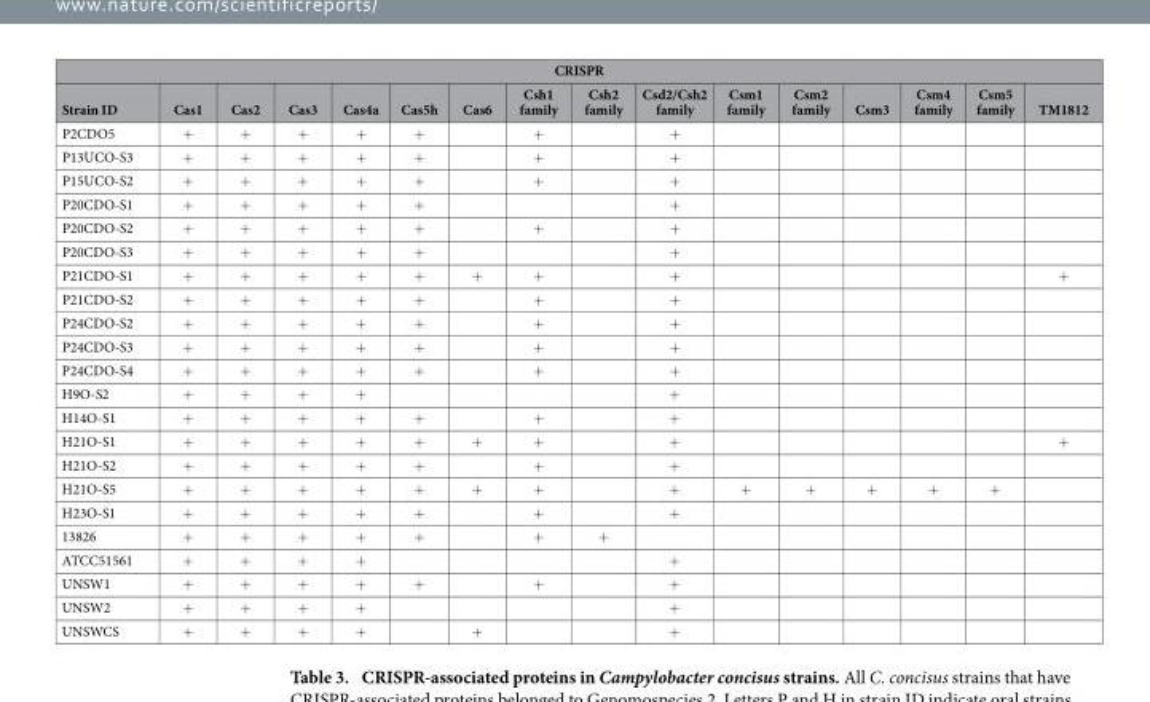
<table><thead><tr><td colspan="16">CRISPR</td></tr><tr><td>Strain ID</td><td>Cas1</td><td>Cas2</td><td>Cas3</td><td>Cas4a</td><td>Cas5h</td><td>Cas6</td><td>Csh1 family</td><td>Csh2 family</td><td>Csd2/Csh2 family</td><td>Csm1 family</td><td>Csm2 family</td><td>Csm3</td><td>Csm4 family</td><td>Csm5 family</td><td>TM1812</td></tr></thead><tbody><tr><td>P2CDO5</td><td>+</td><td>+</td><td>+</td><td>+</td><td>+</td><td></td><td>+</td><td></td><td>+</td><td></td><td></td><td></td><td></td><td></td><td></td></tr><tr><td>P13UCO-S3</td><td>+</td><td>+</td><td>+</td><td>+</td><td>+</td><td></td><td>+</td><td></td><td>+</td><td></td><td></td><td></td><td></td><td></td><td></td></tr><tr><td>P15UCO-S2</td><td>+</td><td>+</td><td>+</td><td>+</td><td>+</td><td></td><td>+</td><td></td><td>+</td><td></td><td></td><td></td><td></td><td></td><td></td></tr><tr><td>P20CDO-S1</td><td>+</td><td>+</td><td>+</td><td>+</td><td>+</td><td></td><td></td><td></td><td>+</td><td></td><td></td><td></td><td></td><td></td><td></td></tr><tr><td>P20CDO-S2</td><td>+</td><td>+</td><td>+</td><td>+</td><td>+</td><td></td><td>+</td><td></td><td>+</td><td></td><td></td><td></td><td></td><td></td><td></td></tr><tr><td>P20CDO-S3</td><td>+</td><td>+</td><td>+</td><td>+</td><td>+</td><td></td><td></td><td></td><td>+</td><td></td><td></td><td></td><td></td><td></td><td></td></tr><tr><td>P21CDO-S1</td><td>+</td><td>+</td><td>+</td><td>+</td><td>+</td><td>+</td><td>+</td><td></td><td>+</td><td></td><td></td><td></td><td></td><td></td><td>+</td></tr><tr><td>P21CDO-S2</td><td>+</td><td>+</td><td>+</td><td>+</td><td>+</td><td></td><td>+</td><td></td><td>+</td><td></td><td></td><td></td><td></td><td></td><td></td></tr><tr><td>P24CDO-S2</td><td>+</td><td>+</td><td>+</td><td>+</td><td>+</td><td></td><td>+</td><td></td><td>+</td><td></td><td></td><td></td><td></td><td></td><td></td></tr><tr><td>P24CDO-S3</td><td>+</td><td>+</td><td>+</td><td>+</td><td>+</td><td></td><td>+</td><td></td><td>+</td><td></td><td></td><td></td><td></td><td></td><td></td></tr><tr><td>P24CDO-S4</td><td>+</td><td>+</td><td>+</td><td>+</td><td>+</td><td></td><td>+</td><td></td><td>+</td><td></td><td></td><td></td><td></td><td></td><td></td></tr><tr><td>H9O-S2</td><td>+</td><td>+</td><td>+</td><td>+</td><td></td><td></td><td></td><td></td><td>+</td><td></td><td></td><td></td><td></td><td></td><td></td></tr><tr><td>H14O-S1</td><td>+</td><td>+</td><td>+</td><td>+</td><td>+</td><td></td><td>+</td><td></td><td>+</td><td></td><td></td><td></td><td></td><td></td><td></td></tr><tr><td>H21O-S1</td><td>+</td><td>+</td><td>+</td><td>+</td><td>+</td><td>+</td><td>+</td><td></td><td>+</td><td></td><td></td><td></td><td></td><td></td><td>+</td></tr><tr><td>H21O-S2</td><td>+</td><td>+</td><td>+</td><td>+</td><td>+</td><td></td><td>+</td><td></td><td>+</td><td></td><td></td><td></td><td></td><td></td><td></td></tr><tr><td>H21O-S5</td><td>+</td><td>+</td><td>+</td><td>+</td><td>+</td><td>+</td><td>+</td><td></td><td>+</td><td>+</td><td>+</td><td>+</td><td>+</td><td>+</td><td></td></tr><tr><td>H23O-S1</td><td>+</td><td>+</td><td>+</td><td>+</td><td>+</td><td></td><td>+</td><td></td><td>+</td><td></td><td></td><td></td><td></td><td></td><td></td></tr><tr><td>13826</td><td>+</td><td>+</td><td>+</td><td>+</td><td>+</td><td></td><td>+</td><td>+</td><td></td><td></td><td></td><td></td><td></td><td></td><td></td></tr><tr><td>ATCC51561</td><td>+</td><td>+</td><td>+</td><td>+</td><td></td><td></td><td></td><td></td><td>+</td><td></td><td></td><td></td><td></td><td></td><td></td></tr><tr><td>UNSW1</td><td>+</td><td>+</td><td>+</td><td>+</td><td>+</td><td></td><td>+</td><td></td><td>+</td><td></td><td></td><td></td><td></td><td></td><td></td></tr><tr><td>UNSW2</td><td>+</td><td>+</td><td>+</td><td>+</td><td></td><td></td><td></td><td></td><td>+</td><td></td><td></td><td></td><td></td><td></td><td></td></tr><tr><td>UNSWCS</td><td>+</td><td>+</td><td>+</td><td>+</td><td></td><td>+</td><td></td><td></td><td>+</td><td></td><td></td><td></td><td></td><td></td><td></td></tr></tbody></table>